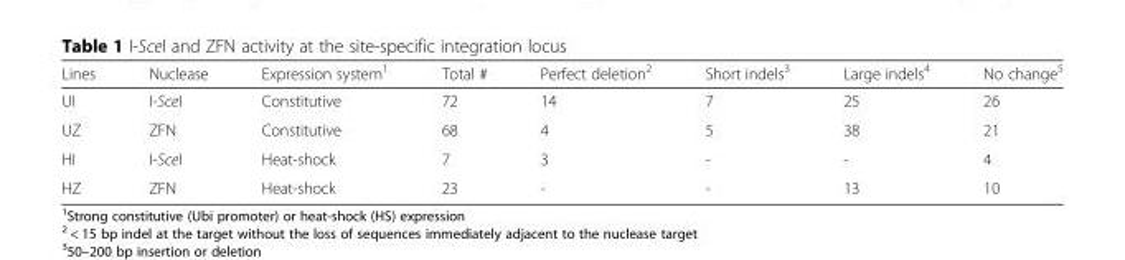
<table><thead><tr><td>Lines</td><td>Nuclease</td><td>Expression system<sup>1</sup></td><td>Total #</td><td>Perfect deletion<sup>2</sup></td><td>Short indels<sup>3</sup></td><td>Large indels<sup>4</sup></td><td>No change<sup>5</sup></td></tr></thead><tbody><tr><td>UI</td><td>I-SceI</td><td>Constitutive</td><td>72</td><td>14</td><td>7</td><td>25</td><td>26</td></tr><tr><td>UZ</td><td>ZFN</td><td>Constitutive</td><td>68</td><td>4</td><td>5</td><td>38</td><td>21</td></tr><tr><td>HI</td><td>I-SceI</td><td>Heat-shock</td><td>7</td><td>3</td><td>-</td><td>-</td><td>4</td></tr><tr><td>HZ</td><td>ZFN</td><td>Heat-shock</td><td>23</td><td>-</td><td>-</td><td>13</td><td>10</td></tr></tbody></table>